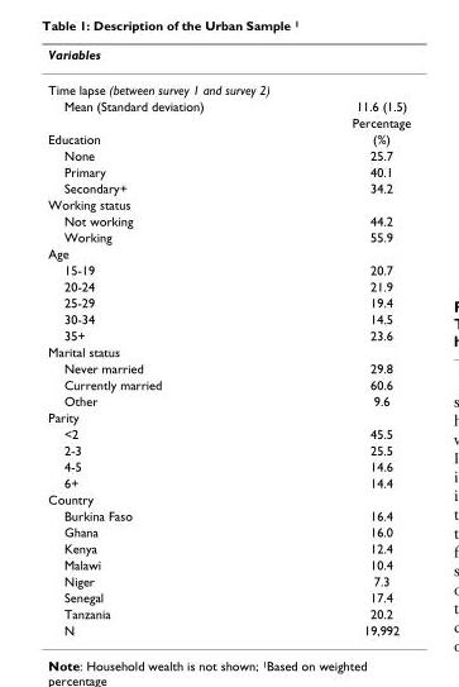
<table><thead><tr><td>Variables</td><td></td></tr></thead><tbody><tr><td colspan="2">Time lapse (between survey 1 and survey 2)</td></tr><tr><td rowspan="2">Mean (Standard deviation)</td><td>11.6 (1.5)</td></tr><tr><td>Percentage</td></tr><tr><td>Education</td><td>(%)</td></tr><tr><td>None</td><td>25.7</td></tr><tr><td>Primary</td><td>40.1</td></tr><tr><td>Secondary+</td><td>34.2</td></tr><tr><td colspan="2">Working status</td></tr><tr><td>Not working</td><td>44.2</td></tr><tr><td>Working</td><td>55.9</td></tr><tr><td colspan="2">Age</td></tr><tr><td>15-19</td><td>20.7</td></tr><tr><td>20-24</td><td>21.9</td></tr><tr><td>25-29</td><td>19.4</td></tr><tr><td>30-34</td><td>14.5</td></tr><tr><td>35+</td><td>23.6</td></tr><tr><td colspan="2">Marital status</td></tr><tr><td>Never married</td><td>29.8</td></tr><tr><td>Currently married</td><td>60.6</td></tr><tr><td>Other</td><td>9.6</td></tr><tr><td colspan="2">Parity</td></tr><tr><td>&lt;2</td><td>45.5</td></tr><tr><td>2-3</td><td>25.5</td></tr><tr><td>4-5</td><td>14.6</td></tr><tr><td>6+</td><td>14.4</td></tr><tr><td colspan="2">Country</td></tr><tr><td>Burkina Faso</td><td>16.4</td></tr><tr><td>Ghana</td><td>16.0</td></tr><tr><td>Kenya</td><td>12.4</td></tr><tr><td>Malawi</td><td>10.4</td></tr><tr><td>Niger</td><td>7.3</td></tr><tr><td>Senegal</td><td>17.4</td></tr><tr><td>Tanzania</td><td>20.2</td></tr><tr><td>N</td><td>19,992</td></tr></tbody></table>